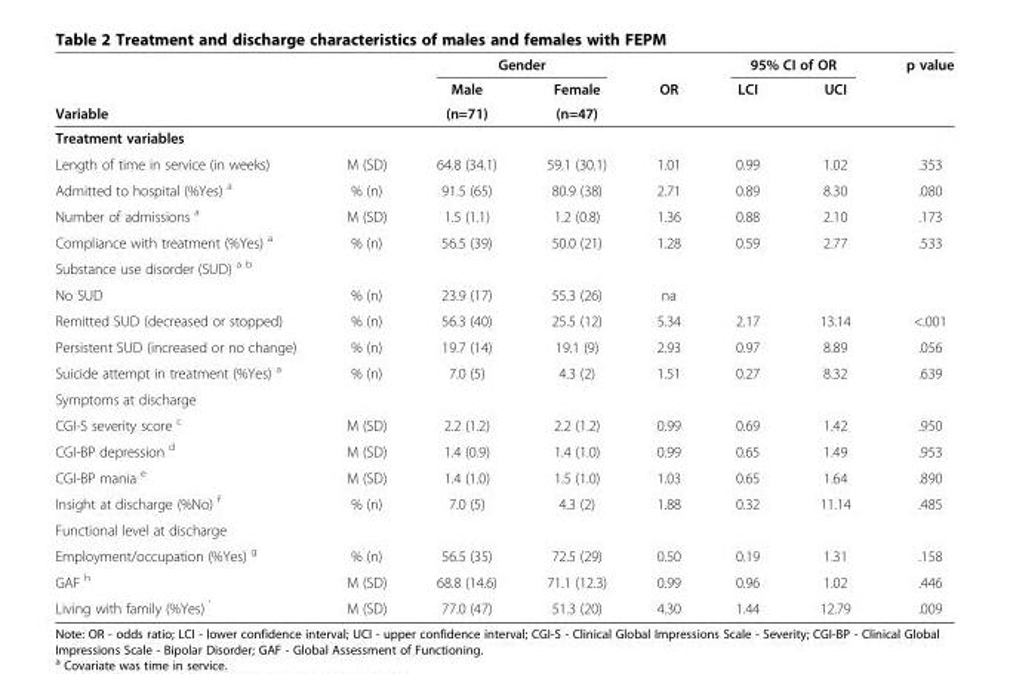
<table><thead><tr><td rowspan="2"></td><td rowspan="2"></td><td colspan="2">Gender</td><td rowspan="3">OR</td><td colspan="2">95% CI of OR</td><td rowspan="3">p value</td></tr><tr><td rowspan="2">Male (n=71)</td><td rowspan="2">Female (n=47)</td><td rowspan="2">LCI</td><td rowspan="2">UCI</td></tr><tr><td colspan="2">Variable</td></tr></thead><tbody><tr><td colspan="8">Treatment variables</td></tr><tr><td>Length of time in service (in weeks)</td><td>M (SD)</td><td>64.8 (34.1)</td><td>59.1 (30.1)</td><td>1.01</td><td>0.99</td><td>1.02</td><td>.353</td></tr><tr><td>Admitted to hospital (%Yes) <sup>a</sup></td><td>% (n)</td><td>91.5 (65)</td><td>80.9 (38)</td><td>2.71</td><td>0.89</td><td>8.30</td><td>.080</td></tr><tr><td>Number of admissions <sup>a</sup></td><td>M (SD)</td><td>1.5 (1.1)</td><td>1.2 (0.8)</td><td>1.36</td><td>0.88</td><td>2.10</td><td>.173</td></tr><tr><td>Compliance with treatment (%Yes) <sup>a</sup></td><td>% (n)</td><td>56.5 (39)</td><td>50.0 (21)</td><td>1.28</td><td>0.59</td><td>2.77</td><td>.533</td></tr><tr><td colspan="8">Substance use disorder (SUD) <sup>a b</sup></td></tr><tr><td>No SUD</td><td>% (n)</td><td>23.9 (17)</td><td>55.3 (26)</td><td>na</td><td></td><td></td><td></td></tr><tr><td>Remitted SUD (decreased or stopped)</td><td>% (n)</td><td>56.3 (40)</td><td>25.5 (12)</td><td>5.34</td><td>2.17</td><td>13.14</td><td>&lt;.001</td></tr><tr><td>Persistent SUD (increased or no change)</td><td>% (n)</td><td>19.7 (14)</td><td>19.1 (9)</td><td>2.93</td><td>0.97</td><td>8.89</td><td>.056</td></tr><tr><td>Suicide attempt in treatment (%Yes) <sup>a</sup></td><td>% (n)</td><td>7.0 (5)</td><td>4.3 (2)</td><td>1.51</td><td>0.27</td><td>8.32</td><td>.639</td></tr><tr><td colspan="8">Symptoms at discharge</td></tr><tr><td>CGI-S severity score <sup>c</sup></td><td>M (SD)</td><td>2.2 (1.2)</td><td>2.2 (1.2)</td><td>0.99</td><td>0.69</td><td>1.42</td><td>.950</td></tr><tr><td>CGI-BP depression <sup>d</sup></td><td>M (SD)</td><td>1.4 (0.9)</td><td>1.4 (1.0)</td><td>0.99</td><td>0.65</td><td>1.49</td><td>.953</td></tr><tr><td>CGI-BP mania <sup>e</sup></td><td>M (SD)</td><td>1.4 (1.0)</td><td>1.5 (1.0)</td><td>1.03</td><td>0.65</td><td>1.64</td><td>.890</td></tr><tr><td>Insight at discharge (%No) <sup>f</sup></td><td>% (n)</td><td>7.0 (5)</td><td>4.3 (2)</td><td>1.88</td><td>0.32</td><td>11.14</td><td>.485</td></tr><tr><td colspan="8">Functional level at discharge</td></tr><tr><td>Employment/occupation (%Yes) <sup>g</sup></td><td>% (n)</td><td>56.5 (35)</td><td>72.5 (29)</td><td>0.50</td><td>0.19</td><td>1.31</td><td>.158</td></tr><tr><td>GAF <sup>h</sup></td><td>M (SD)</td><td>68.8 (14.6)</td><td>71.1 (12.3)</td><td>0.99</td><td>0.96</td><td>1.02</td><td>.446</td></tr><tr><td>Living with family (%Yes) <sup>&#x27;</sup></td><td>M (SD)</td><td>77.0 (47)</td><td>51.3 (20)</td><td>4.30</td><td>1.44</td><td>12.79</td><td>.009</td></tr></tbody></table>